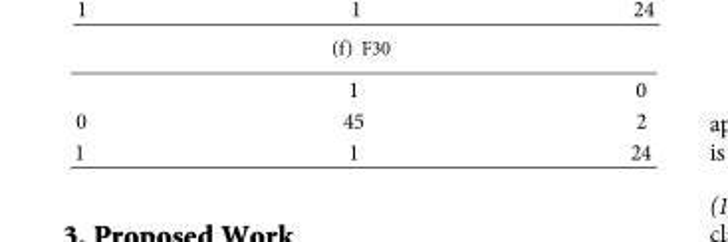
<table><thead><tr><td></td><td>1</td><td>0</td></tr></thead><tbody><tr><td>0</td><td>45</td><td>2</td></tr><tr><td>1</td><td>1</td><td>24</td></tr></tbody></table>